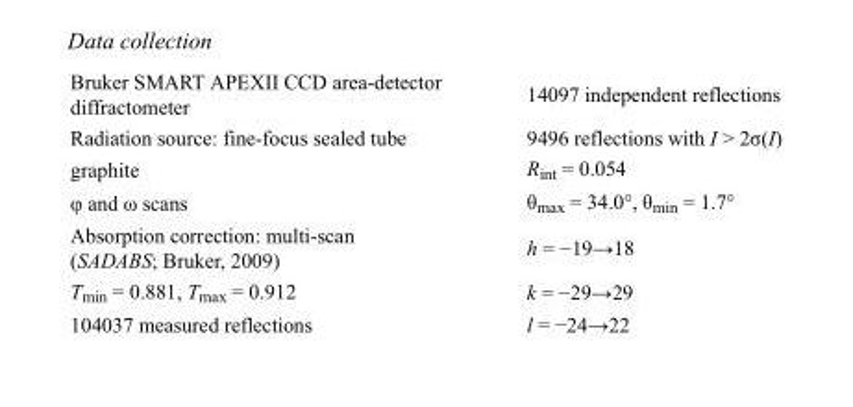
<table><tbody><tr><td>Bruker SMART APEXII CCD area-detector diffractometer</td><td>14097 independent reflections</td></tr><tr><td>Radiation source: fine-focus sealed tube</td><td>9496 reflections with I &gt; 2σ(I)</td></tr><tr><td>graphite</td><td>R<sub>int</sub> = 0.054</td></tr><tr><td>φ and ω scans</td><td>θ<sub>max</sub> = 34.0°, θ<sub>min</sub> = 1.7°</td></tr><tr><td>Absorption correction: multi-scan (SADABS; Bruker, 2009)</td><td>h = −19→18</td></tr><tr><td>T<sub>min</sub> = 0.881, T<sub>max</sub> = 0.912</td><td>k = −29→29</td></tr><tr><td>104037 measured reflections</td><td>l = −24→22</td></tr></tbody></table>